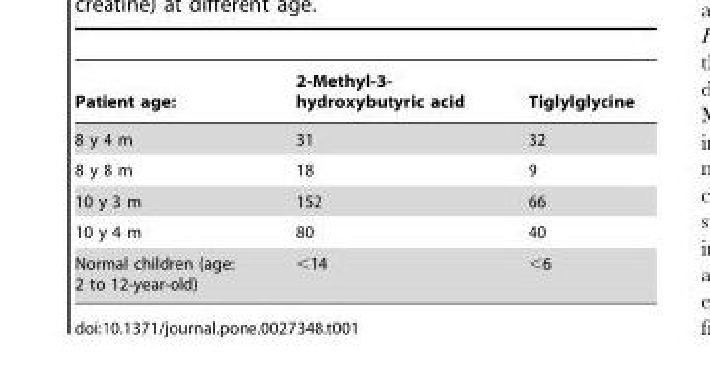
<table><thead><tr><td>Patient age:</td><td>2-Methyl-3- hydroxybutyric acid</td><td>Tiglylglycine</td></tr></thead><tbody><tr><td>8 y 4 m</td><td>31</td><td>32</td></tr><tr><td>8 y 8 m</td><td>18</td><td>9</td></tr><tr><td>10 y 3 m</td><td>152</td><td>66</td></tr><tr><td>10 y 4 m</td><td>80</td><td>40</td></tr><tr><td>Normal children (age: 2 to 12-year-old)</td><td>&lt;14</td><td>&lt;6</td></tr></tbody></table>